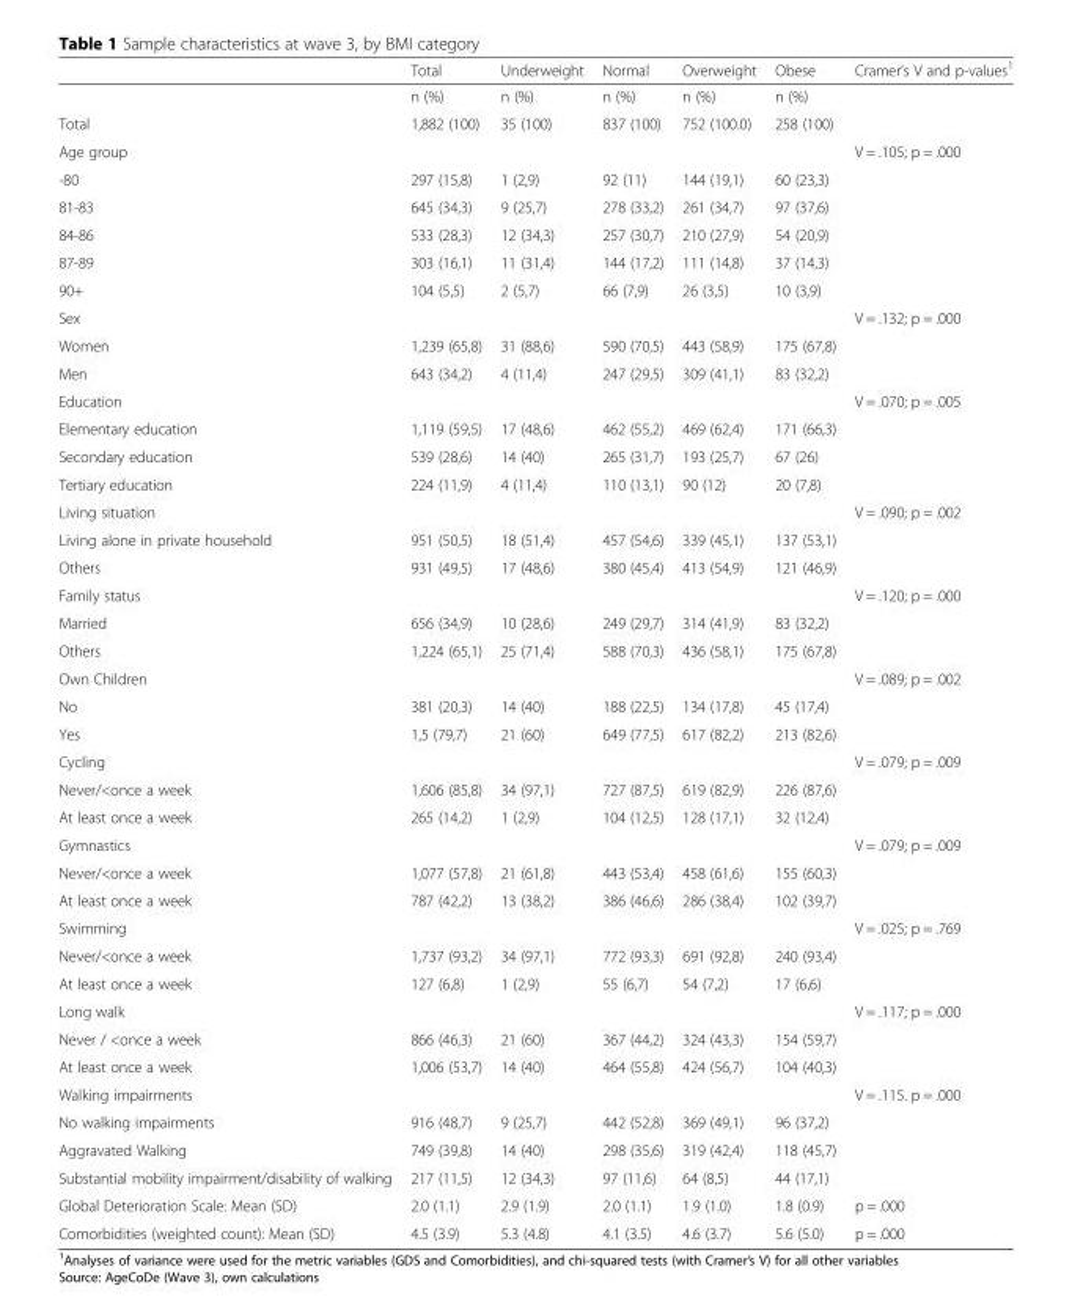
<table><thead><tr><td></td><td>Total</td><td>Underweight</td><td>Normal</td><td>Overweight</td><td>Obese</td><td>Cramer’s V and p-values<sup>1</sup></td></tr></thead><tbody><tr><td></td><td>n (%)</td><td>n (%)</td><td>n (%)</td><td>n (%)</td><td>n (%)</td><td></td></tr><tr><td>Total</td><td>1,882 (100)</td><td>35 (100)</td><td>837 (100)</td><td>752 (100.0)</td><td>258 (100)</td><td></td></tr><tr><td>Age group</td><td></td><td></td><td></td><td></td><td></td><td>V = .105; p = .000</td></tr><tr><td>-80</td><td>297 (15,8)</td><td>1 (2,9)</td><td>92 (11)</td><td>144 (19,1)</td><td>60 (23,3)</td><td></td></tr><tr><td>81-83</td><td>645 (34,3)</td><td>9 (25,7)</td><td>278 (33,2)</td><td>261 (34,7)</td><td>97 (37,6)</td><td></td></tr><tr><td>84-86</td><td>533 (28,3)</td><td>12 (34,3)</td><td>257 (30,7)</td><td>210 (27,9)</td><td>54 (20,9)</td><td></td></tr><tr><td>87-89</td><td>303 (16,1)</td><td>11 (31,4)</td><td>144 (17,2)</td><td>111 (14,8)</td><td>37 (14,3)</td><td></td></tr><tr><td>90+</td><td>104 (5,5)</td><td>2 (5,7)</td><td>66 (7,9)</td><td>26 (3,5)</td><td>10 (3,9)</td><td></td></tr><tr><td>Sex</td><td></td><td></td><td></td><td></td><td></td><td>V = .132; p = .000</td></tr><tr><td>Women</td><td>1,239 (65,8)</td><td>31 (88,6)</td><td>590 (70,5)</td><td>443 (58,9)</td><td>175 (67,8)</td><td></td></tr><tr><td>Men</td><td>643 (34,2)</td><td>4 (11,4)</td><td>247 (29,5)</td><td>309 (41,1)</td><td>83 (32,2)</td><td></td></tr><tr><td>Education</td><td></td><td></td><td></td><td></td><td></td><td>V = .070; p = .005</td></tr><tr><td>Elementary education</td><td>1,119 (59,5)</td><td>17 (48,6)</td><td>462 (55,2)</td><td>469 (62,4)</td><td>171 (66,3)</td><td></td></tr><tr><td>Secondary education</td><td>539 (28,6)</td><td>14 (40)</td><td>265 (31,7)</td><td>193 (25,7)</td><td>67 (26)</td><td></td></tr><tr><td>Tertiary education</td><td>224 (11,9)</td><td>4 (11,4)</td><td>110 (13,1)</td><td>90 (12)</td><td>20 (7,8)</td><td></td></tr><tr><td>Living situation</td><td></td><td></td><td></td><td></td><td></td><td>V = .090; p = .002</td></tr><tr><td>Living alone in private household</td><td>951 (50,5)</td><td>18 (51,4)</td><td>457 (54,6)</td><td>339 (45,1)</td><td>137 (53,1)</td><td></td></tr><tr><td>Others</td><td>931 (49,5)</td><td>17 (48,6)</td><td>380 (45,4)</td><td>413 (54,9)</td><td>121 (46,9)</td><td></td></tr><tr><td>Family status</td><td></td><td></td><td></td><td></td><td></td><td>V = .120; p = .000</td></tr><tr><td>Married</td><td>656 (34,9)</td><td>10 (28,6)</td><td>249 (29,7)</td><td>314 (41,9)</td><td>83 (32,2)</td><td></td></tr><tr><td>Others</td><td>1,224 (65,1)</td><td>25 (71,4)</td><td>588 (70,3)</td><td>436 (58,1)</td><td>175 (67,8)</td><td></td></tr><tr><td>Own Children</td><td></td><td></td><td></td><td></td><td></td><td>V = .089; p = .002</td></tr><tr><td>No</td><td>381 (20,3)</td><td>14 (40)</td><td>188 (22,5)</td><td>134 (17,8)</td><td>45 (17,4)</td><td></td></tr><tr><td>Yes</td><td>1,5 (79,7)</td><td>21 (60)</td><td>649 (77,5)</td><td>617 (82,2)</td><td>213 (82,6)</td><td></td></tr><tr><td>Cycling</td><td></td><td></td><td></td><td></td><td></td><td>V = .079; p = .009</td></tr><tr><td>Never/&lt;once a week</td><td>1,606 (85,8)</td><td>34 (97,1)</td><td>727 (87,5)</td><td>619 (82,9)</td><td>226 (87,6)</td><td></td></tr><tr><td>At least once a week</td><td>265 (14,2)</td><td>1 (2,9)</td><td>104 (12,5)</td><td>128 (17,1)</td><td>32 (12,4)</td><td></td></tr><tr><td>Gymnastics</td><td></td><td></td><td></td><td></td><td></td><td>V = .079; p = .009</td></tr><tr><td>Never/&lt;once a week</td><td>1,077 (57,8)</td><td>21 (61,8)</td><td>443 (53,4)</td><td>458 (61,6)</td><td>155 (60,3)</td><td></td></tr><tr><td>At least once a week</td><td>787 (42,2)</td><td>13 (38,2)</td><td>386 (46,6)</td><td>286 (38,4)</td><td>102 (39,7)</td><td></td></tr><tr><td>Swimming</td><td></td><td></td><td></td><td></td><td></td><td>V = .025; p = .769</td></tr><tr><td>Never/&lt;once a week</td><td>1,737 (93,2)</td><td>34 (97,1)</td><td>772 (93,3)</td><td>691 (92,8)</td><td>240 (93,4)</td><td></td></tr><tr><td>At least once a week</td><td>127 (6,8)</td><td>1 (2,9)</td><td>55 (6,7)</td><td>54 (7,2)</td><td>17 (6,6)</td><td></td></tr><tr><td>Long walk</td><td></td><td></td><td></td><td></td><td></td><td>V = .117; p = .000</td></tr><tr><td>Never / &lt;once a week</td><td>866 (46,3)</td><td>21 (60)</td><td>367 (44,2)</td><td>324 (43,3)</td><td>154 (59,7)</td><td></td></tr><tr><td>At least once a week</td><td>1,006 (53,7)</td><td>14 (40)</td><td>464 (55,8)</td><td>424 (56,7)</td><td>104 (40,3)</td><td></td></tr><tr><td>Walking impairments</td><td></td><td></td><td></td><td></td><td></td><td>V = .115. p = .000</td></tr><tr><td>No walking impairments</td><td>916 (48,7)</td><td>9 (25,7)</td><td>442 (52,8)</td><td>369 (49,1)</td><td>96 (37,2)</td><td></td></tr><tr><td>Aggravated Walking</td><td>749 (39,8)</td><td>14 (40)</td><td>298 (35,6)</td><td>319 (42,4)</td><td>118 (45,7)</td><td></td></tr><tr><td>Substantial mobility impairment/disability of walking</td><td>217 (11,5)</td><td>12 (34,3)</td><td>97 (11,6)</td><td>64 (8,5)</td><td>44 (17,1)</td><td></td></tr><tr><td>Global Deterioration Scale: Mean (SD)</td><td>2.0 (1.1)</td><td>2.9 (1.9)</td><td>2.0 (1.1)</td><td>1.9 (1.0)</td><td>1.8 (0.9)</td><td>p = .000</td></tr><tr><td>Comorbidities (weighted count): Mean (SD)</td><td>4.5 (3.9)</td><td>5.3 (4.8)</td><td>4.1 (3.5)</td><td>4.6 (3.7)</td><td>5.6 (5.0)</td><td>p = .000</td></tr></tbody></table>